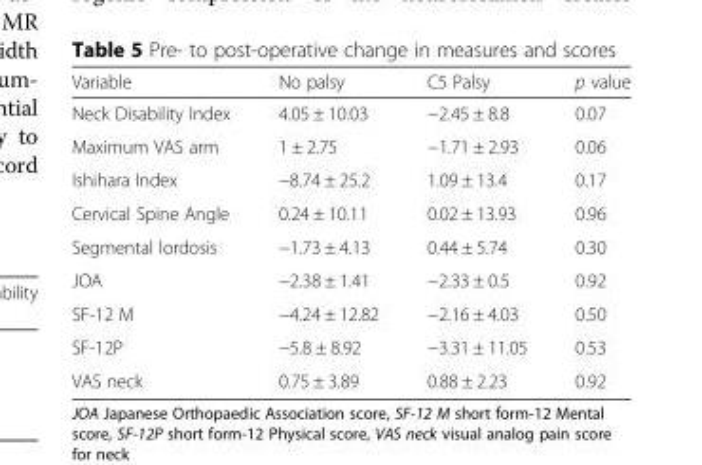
<table><thead><tr><td>Variable</td><td>No palsy</td><td>C5 Palsy</td><td>p value</td></tr></thead><tbody><tr><td>Neck Disability Index</td><td>4.05 ± 10.03</td><td>−2.45 ± 8.8</td><td>0.07</td></tr><tr><td>Maximum VAS arm</td><td>1 ± 2.75</td><td>−1.71 ± 2.93</td><td>0.06</td></tr><tr><td>Ishihara Index</td><td>−8.74 ± 25.2</td><td>1.09 ± 13.4</td><td>0.17</td></tr><tr><td>Cervical Spine Angle</td><td>0.24 ± 10.11</td><td>0.02 ± 13.93</td><td>0.96</td></tr><tr><td>Segmental lordosis</td><td>−1.73 ± 4.13</td><td>0.44 ± 5.74</td><td>0.30</td></tr><tr><td>JOA</td><td>−2.38 ± 1.41</td><td>−2.33 ± 0.5</td><td>0.92</td></tr><tr><td>SF-12 M</td><td>−4.24 ± 12.82</td><td>−2.16 ± 4.03</td><td>0.50</td></tr><tr><td>SF-12P</td><td>−5.8 ± 8.92</td><td>−3.31 ± 11.05</td><td>0.53</td></tr><tr><td>VAS neck</td><td>0.75 ± 3.89</td><td>0.88 ± 2.23</td><td>0.92</td></tr></tbody></table>